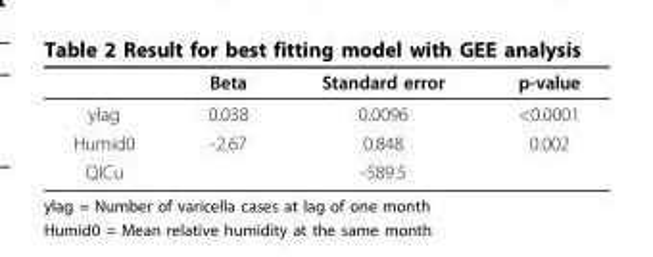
<table><thead><tr><td></td><td>Beta</td><td>Standard error</td><td>p-value</td></tr></thead><tbody><tr><td>ylag</td><td>0.038</td><td>0.0096</td><td>&lt;0.0001</td></tr><tr><td>Humid0</td><td>-2.67</td><td>0.848</td><td>0.002</td></tr><tr><td>QICu</td><td></td><td>-589.5</td><td></td></tr></tbody></table>